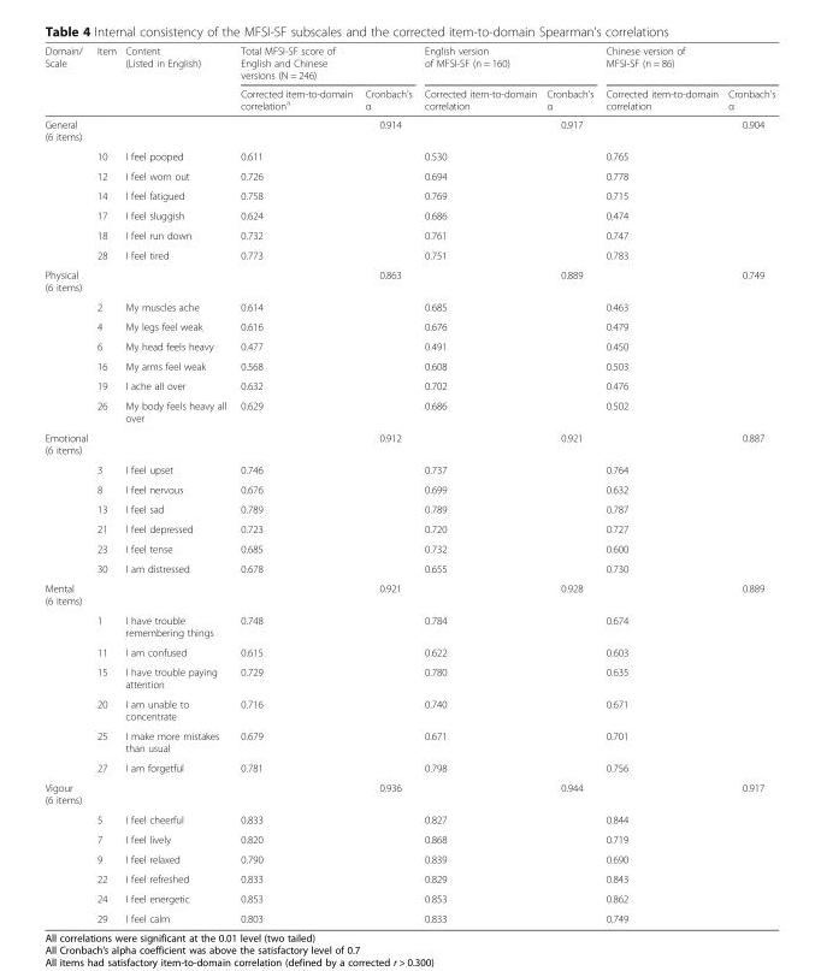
<table><thead><tr><td rowspan="2">Domain/ Scale</td><td rowspan="2">Item</td><td rowspan="2">Content (Listed in English)</td><td colspan="2">Total MFSI-SF score of English and Chinese versions (N = 246)</td><td colspan="2">English version of MFSI-SF (n = 160)</td><td colspan="2">Chinese version of MFSI-SF (n = 86)</td></tr><tr><td>Corrected item-to-domain correlation<sup>a</sup></td><td>Cronbach’s α</td><td>Corrected item-to-domain correlation</td><td>Cronbach’s α</td><td>Corrected item-to-domain correlation</td><td>Cronbach’s α</td></tr></thead><tbody><tr><td rowspan="7">General (6 items)</td><td></td><td></td><td></td><td>0.914</td><td></td><td>0.917</td><td></td><td>0.904</td></tr><tr><td>10</td><td>I feel pooped</td><td>0.611</td><td></td><td>0.530</td><td></td><td>0.765</td><td></td></tr><tr><td>12</td><td>I feel worn out</td><td>0.726</td><td></td><td>0.694</td><td></td><td>0.778</td><td></td></tr><tr><td>14</td><td>I feel fatigued</td><td>0.758</td><td></td><td>0.769</td><td></td><td>0.715</td><td></td></tr><tr><td>17</td><td>I feel sluggish</td><td>0.624</td><td></td><td>0.686</td><td></td><td>0.474</td><td></td></tr><tr><td>18</td><td>I feel run down</td><td>0.732</td><td></td><td>0.761</td><td></td><td>0.747</td><td></td></tr><tr><td>28</td><td>I feel tired</td><td>0.773</td><td></td><td>0.751</td><td></td><td>0.783</td><td></td></tr><tr><td rowspan="7">Physical (6 items)</td><td></td><td></td><td></td><td>0.863</td><td></td><td>0.889</td><td></td><td>0.749</td></tr><tr><td>2</td><td>My muscles ache</td><td>0.614</td><td></td><td>0.685</td><td></td><td>0.463</td><td></td></tr><tr><td>4</td><td>My legs feel weak</td><td>0.616</td><td></td><td>0.676</td><td></td><td>0.479</td><td></td></tr><tr><td>6</td><td>My head feels heavy</td><td>0.477</td><td></td><td>0.491</td><td></td><td>0.450</td><td></td></tr><tr><td>16</td><td>My arms feel weak</td><td>0.568</td><td></td><td>0.608</td><td></td><td>0.503</td><td></td></tr><tr><td>19</td><td>I ache all over</td><td>0.632</td><td></td><td>0.702</td><td></td><td>0.476</td><td></td></tr><tr><td>26</td><td>My body feels heavy all over</td><td>0.629</td><td></td><td>0.686</td><td></td><td>0.502</td><td></td></tr><tr><td rowspan="7">Emotional (6 items)</td><td></td><td></td><td></td><td>0.912</td><td></td><td>0.921</td><td></td><td>0.887</td></tr><tr><td>3</td><td>I feel upset</td><td>0.746</td><td></td><td>0.737</td><td></td><td>0.764</td><td></td></tr><tr><td>8</td><td>I feel nervous</td><td>0.676</td><td></td><td>0.699</td><td></td><td>0.632</td><td></td></tr><tr><td>13</td><td>I feel sad</td><td>0.789</td><td></td><td>0.789</td><td></td><td>0.787</td><td></td></tr><tr><td>21</td><td>I feel depressed</td><td>0.723</td><td></td><td>0.720</td><td></td><td>0.727</td><td></td></tr><tr><td>23</td><td>I feel tense</td><td>0.685</td><td></td><td>0.732</td><td></td><td>0.600</td><td></td></tr><tr><td>30</td><td>I am distressed</td><td>0.678</td><td></td><td>0.655</td><td></td><td>0.730</td><td></td></tr><tr><td rowspan="7">Mental (6 items)</td><td></td><td></td><td></td><td>0.921</td><td></td><td>0.928</td><td></td><td>0.889</td></tr><tr><td>1</td><td>I have trouble remembering things</td><td>0.748</td><td></td><td>0.784</td><td></td><td>0.674</td><td></td></tr><tr><td>11</td><td>I am confused</td><td>0.615</td><td></td><td>0.622</td><td></td><td>0.603</td><td></td></tr><tr><td>15</td><td>I have trouble paying attention</td><td>0.729</td><td></td><td>0.780</td><td></td><td>0.635</td><td></td></tr><tr><td>20</td><td>I am unable to concentrate</td><td>0.716</td><td></td><td>0.740</td><td></td><td>0.671</td><td></td></tr><tr><td>25</td><td>I make more mistakes than usual</td><td>0.679</td><td></td><td>0.671</td><td></td><td>0.701</td><td></td></tr><tr><td>27</td><td>I am forgetful</td><td>0.781</td><td></td><td>0.798</td><td></td><td>0.756</td><td></td></tr><tr><td rowspan="7">Vigour (6 items)</td><td></td><td></td><td></td><td>0.936</td><td></td><td>0.944</td><td></td><td>0.917</td></tr><tr><td>5</td><td>I feel cheerful</td><td>0.833</td><td></td><td>0.827</td><td></td><td>0.844</td><td></td></tr><tr><td>7</td><td>I feel lively</td><td>0.820</td><td></td><td>0.868</td><td></td><td>0.719</td><td></td></tr><tr><td>9</td><td>I feel relaxed</td><td>0.790</td><td></td><td>0.839</td><td></td><td>0.690</td><td></td></tr><tr><td>22</td><td>I feel refreshed</td><td>0.833</td><td></td><td>0.829</td><td></td><td>0.843</td><td></td></tr><tr><td>24</td><td>I feel energetic</td><td>0.853</td><td></td><td>0.853</td><td></td><td>0.862</td><td></td></tr><tr><td>29</td><td>I feel calm</td><td>0.803</td><td></td><td>0.833</td><td></td><td>0.749</td><td></td></tr></tbody></table>